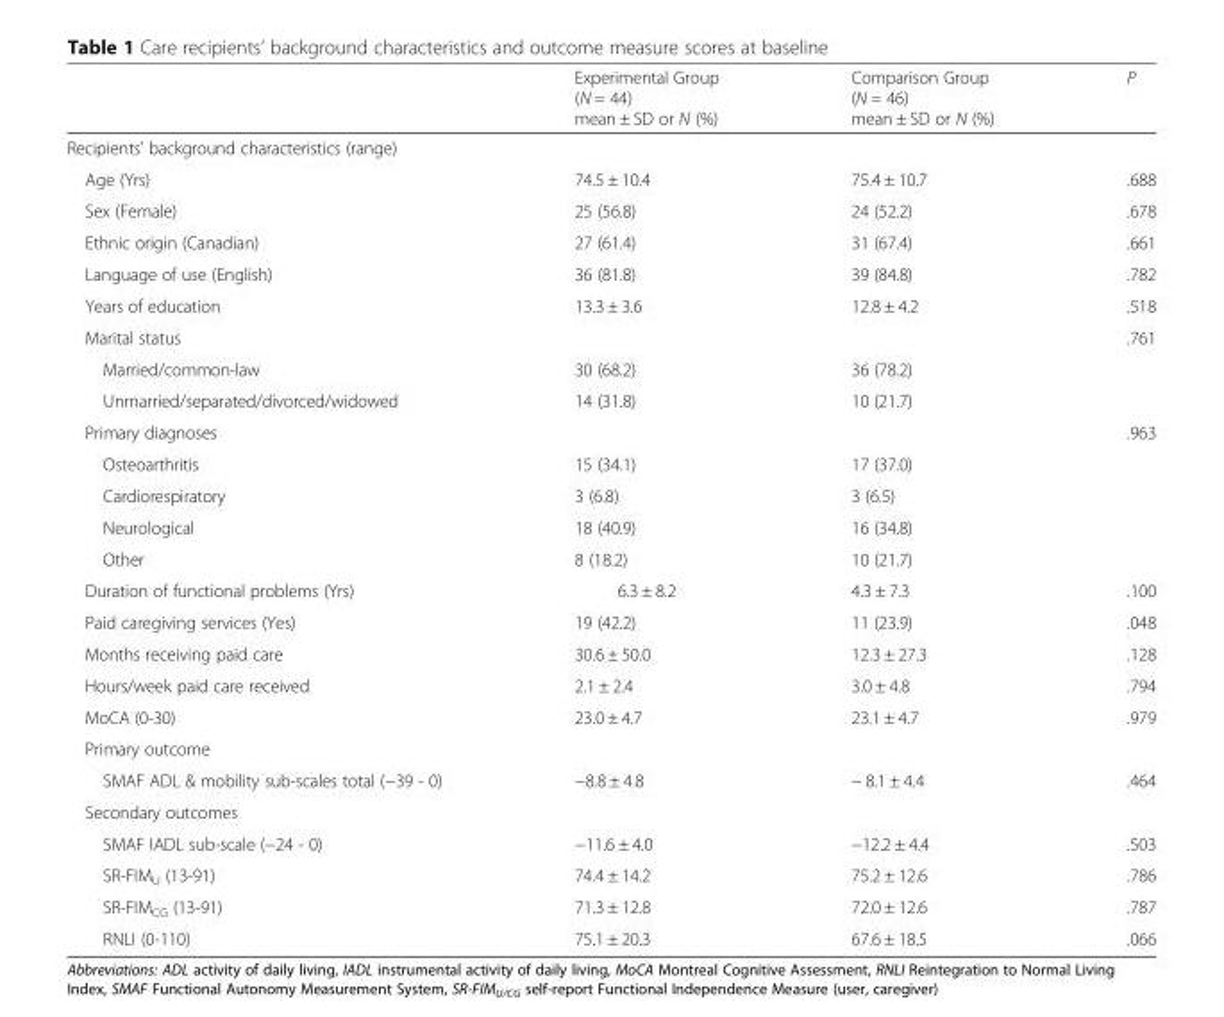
<table><thead><tr><td></td><td>Experimental Group (N = 44) mean ± SD or N (%)</td><td>Comparison Group (N = 46) mean ± SD or N (%)</td><td>P</td></tr></thead><tbody><tr><td colspan="4">Recipients’ background characteristics (range)</td></tr><tr><td>Age (Yrs)</td><td>74.5 ± 10.4</td><td>75.4 ± 10.7</td><td>.688</td></tr><tr><td>Sex (Female)</td><td>25 (56.8)</td><td>24 (52.2)</td><td>.678</td></tr><tr><td>Ethnic origin (Canadian)</td><td>27 (61.4)</td><td>31 (67.4)</td><td>.661</td></tr><tr><td>Language of use (English)</td><td>36 (81.8)</td><td>39 (84.8)</td><td>.782</td></tr><tr><td>Years of education</td><td>13.3 ± 3.6</td><td>12.8 ± 4.2</td><td>.518</td></tr><tr><td>Marital status</td><td></td><td></td><td>.761</td></tr><tr><td>Married/common-law</td><td>30 (68.2)</td><td>36 (78.2)</td><td></td></tr><tr><td>Unmarried/separated/divorced/widowed</td><td>14 (31.8)</td><td>10 (21.7)</td><td></td></tr><tr><td>Primary diagnoses</td><td></td><td></td><td>.963</td></tr><tr><td>Osteoarthritis</td><td>15 (34.1)</td><td>17 (37.0)</td><td></td></tr><tr><td>Cardiorespiratory</td><td>3 (6.8)</td><td>3 (6.5)</td><td></td></tr><tr><td>Neurological</td><td>18 (40.9)</td><td>16 (34.8)</td><td></td></tr><tr><td>Other</td><td>8 (18.2)</td><td>10 (21.7)</td><td></td></tr><tr><td>Duration of functional problems (Yrs)</td><td>6.3 ± 8.2</td><td>4.3 ± 7.3</td><td>.100</td></tr><tr><td>Paid caregiving services (Yes)</td><td>19 (42.2)</td><td>11 (23.9)</td><td>.048</td></tr><tr><td>Months receiving paid care</td><td>30.6 ± 50.0</td><td>12.3 ± 27.3</td><td>.128</td></tr><tr><td>Hours/week paid care received</td><td>2.1 ± 2.4</td><td>3.0 ± 4.8</td><td>.794</td></tr><tr><td>MoCA (0-30)</td><td>23.0 ± 4.7</td><td>23.1 ± 4.7</td><td>.979</td></tr><tr><td colspan="4">Primary outcome</td></tr><tr><td>SMAF ADL &amp; mobility sub-scales total (−39 - 0)</td><td>−8.8 ± 4.8</td><td>− 8.1 ± 4.4</td><td>.464</td></tr><tr><td colspan="4">Secondary outcomes</td></tr><tr><td>SMAF IADL sub-scale (−24 - 0)</td><td>−11.6 ± 4.0</td><td>−12.2 ± 4.4</td><td>.503</td></tr><tr><td>SR-FIM<sub>U</sub> (13-91)</td><td>74.4 ± 14.2</td><td>75.2 ± 12.6</td><td>.786</td></tr><tr><td>SR-FIM<sub>CG</sub> (13-91)</td><td>71.3 ± 12.8</td><td>72.0 ± 12.6</td><td>.787</td></tr><tr><td>RNLI (0-110)</td><td>75.1 ± 20.3</td><td>67.6 ± 18.5</td><td>.066</td></tr></tbody></table>